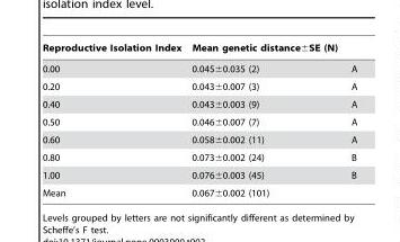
<table><thead><tr><td>Reproductive Isolation Index</td><td>Mean genetic distance±SE (N)</td><td></td></tr></thead><tbody><tr><td>0.00</td><td>0.045±0.035 (2)</td><td>A</td></tr><tr><td>0.20</td><td>0.043±0.007 (3)</td><td>A</td></tr><tr><td>0.40</td><td>0.043±0.003 (9)</td><td>A</td></tr><tr><td>0.50</td><td>0.046±0.007 (7)</td><td>A</td></tr><tr><td>0.60</td><td>0.058±0.002 (11)</td><td>A</td></tr><tr><td>0.80</td><td>0.073±0.002 (24)</td><td>B</td></tr><tr><td>1.00</td><td>0.076±0.003 (45)</td><td>B</td></tr><tr><td>Mean</td><td>0.067±0.002 (101)</td><td></td></tr></tbody></table>